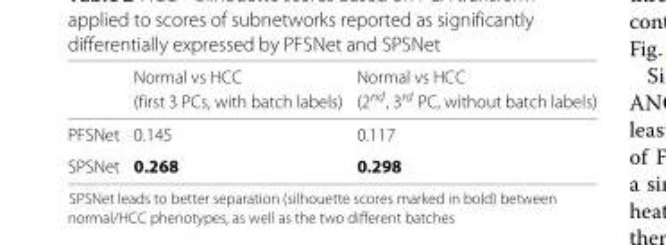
<table><thead><tr><td rowspan="2"></td><td rowspan="2">Normal vs HCC (first 3 PCs, with batch labels)</td><td rowspan="2">Normal vs HCC (2<sup>nd</sup>, 3<sup>rd</sup> PC, without batch labels)</td></tr><tr></tr></thead><tbody><tr><td>PFSNet</td><td>0.145</td><td>0.117</td></tr><tr><td>SPSNet</td><td>0.268</td><td>0.298</td></tr></tbody></table>